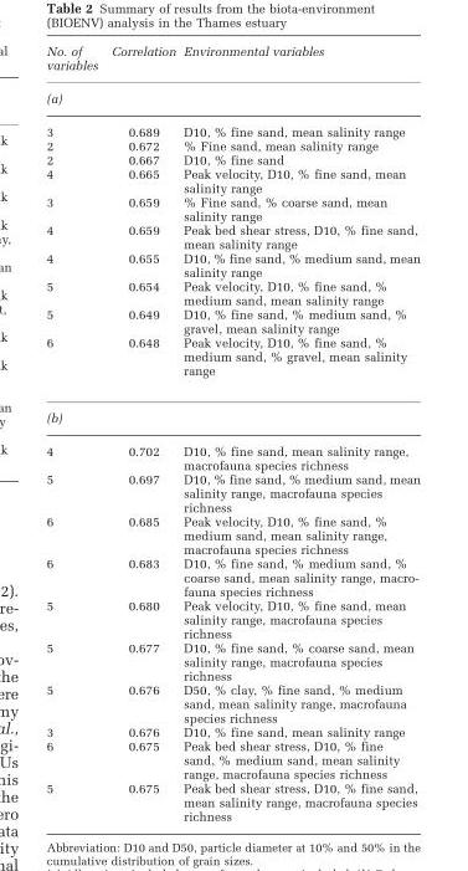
<table><thead><tr><td>No. of variables</td><td>Correlation</td><td>Environmental variables</td></tr></thead><tbody><tr><td colspan="3">(a)</td></tr><tr><td>3</td><td>0.689</td><td>D10, % fine sand, mean salinity range</td></tr><tr><td>2</td><td>0.672</td><td>% Fine sand, mean salinity range</td></tr><tr><td>2</td><td>0.667</td><td>D10, % fine sand</td></tr><tr><td>4</td><td>0.665</td><td>Peak velocity, D10, % fine sand, mean salinity range</td></tr><tr><td>3</td><td>0.659</td><td>% Fine sand, % coarse sand, mean salinity range</td></tr><tr><td>4</td><td>0.659</td><td>Peak bed shear stress, D10, % fine sand, mean salinity range</td></tr><tr><td>4</td><td>0.655</td><td>D10, % fine sand, % medium sand, mean salinity range</td></tr><tr><td>5</td><td>0.654</td><td>Peak velocity, D10, % fine sand, % medium sand, mean salinity range</td></tr><tr><td>5</td><td>0.649</td><td>D10, % fine sand, % medium sand, % gravel, mean salinity range</td></tr><tr><td>6</td><td>0.648</td><td>Peak velocity, D10, % fine sand, % medium sand, % gravel, mean salinity range</td></tr><tr><td colspan="3">(b)</td></tr><tr><td>4</td><td>0.702</td><td>D10, % fine sand, mean salinity range, macrofauna species richness</td></tr><tr><td>5</td><td>0.697</td><td>D10, % fine sand, % medium sand, mean salinity range, macrofauna species richness</td></tr><tr><td>6</td><td>0.685</td><td>Peak velocity, D10, % fine sand, % medium sand, mean salinity range, macrofauna species richness</td></tr><tr><td>6</td><td>0.683</td><td>D10, % fine sand, % medium sand, % coarse sand, mean salinity range, macro- fauna species richness</td></tr><tr><td>5</td><td>0.680</td><td>Peak velocity, D10, % fine sand, mean salinity range, macrofauna species richness</td></tr><tr><td>5</td><td>0.677</td><td>D10, % fine sand, % coarse sand, mean salinity range, macrofauna species richness</td></tr><tr><td>5</td><td>0.676</td><td>D50, % clay, % fine sand, % medium sand, mean salinity range, macrofauna species richness</td></tr><tr><td>3</td><td>0.676</td><td>D10, % fine sand, mean salinity range</td></tr><tr><td>6</td><td>0.675</td><td>Peak bed shear stress, D10, % fine sand, % medium sand, mean salinity range, macrofauna species richness</td></tr><tr><td>5</td><td>0.675</td><td>Peak bed shear stress, D10, % fine sand, mean salinity range, macrofauna species richness</td></tr></tbody></table>